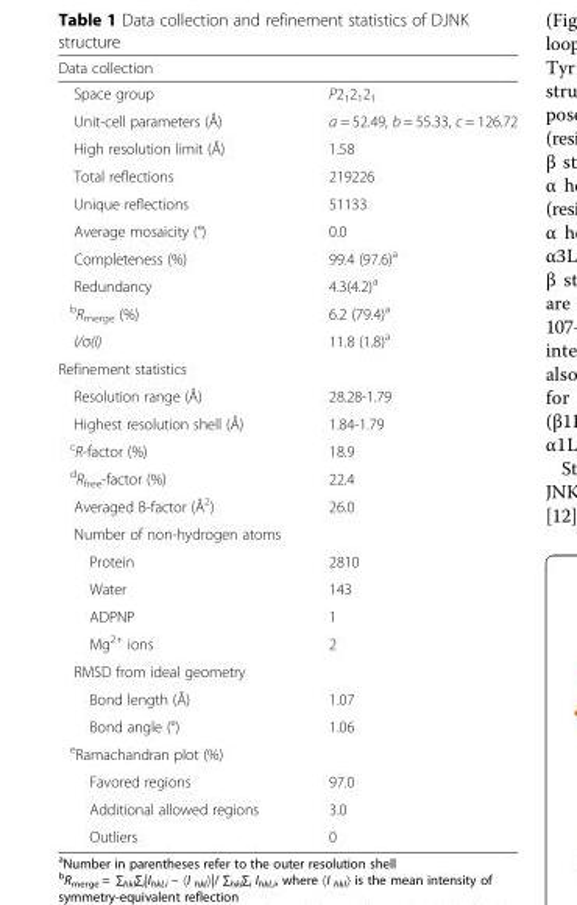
<table><thead><tr><td>Data collection</td><td></td></tr></thead><tbody><tr><td>Space group</td><td>P2<sub>1</sub>2<sub>1</sub>2<sub>1</sub></td></tr><tr><td>Unit-cell parameters (Å)</td><td>a = 52.49, b = 55.33, c = 126.72</td></tr><tr><td>High resolution limit (Å)</td><td>1.58</td></tr><tr><td>Total reflections</td><td>219226</td></tr><tr><td>Unique reflections</td><td>51133</td></tr><tr><td>Average mosaicity (°)</td><td>0.0</td></tr><tr><td>Completeness (%)</td><td>99.4 (97.6)<sup>a</sup></td></tr><tr><td>Redundancy</td><td>4.3(4.2)<sup>a</sup></td></tr><tr><td><sup>b</sup>R<sub>merge</sub> (%)</td><td>6.2 (79.4)<sup>a</sup></td></tr><tr><td>I/σ(I)</td><td>11.8 (1.8)<sup>a</sup></td></tr><tr><td colspan="2">Refinement statistics</td></tr><tr><td>Resolution range (Å)</td><td>28.28-1.79</td></tr><tr><td>Highest resolution shell (Å)</td><td>1.84-1.79</td></tr><tr><td><sup>c</sup>R-factor (%)</td><td>18.9</td></tr><tr><td><sup>d</sup>R<sub>free</sub>-factor (%)</td><td>22.4</td></tr><tr><td>Averaged B-factor (Å<sup>2</sup>)</td><td>26.0</td></tr><tr><td colspan="2">Number of non-hydrogen atoms</td></tr><tr><td>Protein</td><td>2810</td></tr><tr><td>Water</td><td>143</td></tr><tr><td>ADPNP</td><td>1</td></tr><tr><td>Mg<sup>2+</sup> ions</td><td>2</td></tr><tr><td colspan="2">RMSD from ideal geometry</td></tr><tr><td>Bond length (Å)</td><td>1.07</td></tr><tr><td>Bond angle (°)</td><td>1.06</td></tr><tr><td colspan="2"><sup>e</sup>Ramachandran plot (%)</td></tr><tr><td>Favored regions</td><td>97.0</td></tr><tr><td>Additional allowed regions</td><td>3.0</td></tr><tr><td>Outliers</td><td>0</td></tr></tbody></table>